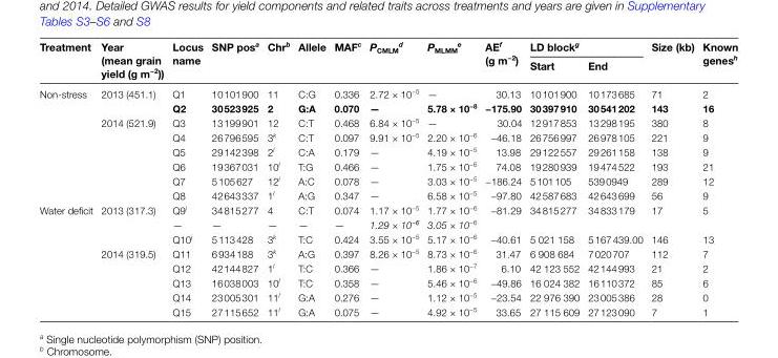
<table><thead><tr><td rowspan="2">Treatment</td><td rowspan="2">Year (mean grain yield (g m<sup>−2</sup>))</td><td rowspan="2">Locus name</td><td rowspan="2">SNP pos<sup>a</sup></td><td rowspan="2">Chr<sup>b</sup></td><td rowspan="2">Allele</td><td rowspan="2">MAF<sup>c</sup></td><td rowspan="2">P<sub>CMLM</sub> <sup>d</sup></td><td rowspan="2">P<sub>MLMM</sub> <sup>e</sup></td><td rowspan="2">AE<sup>f</sup> (g m<sup>−2</sup>)</td><td colspan="2">LD block<sup>g</sup></td><td rowspan="2">Size (kb)</td><td rowspan="2">Known genes<sup>h</sup></td></tr><tr><td>Start</td><td>End</td></tr></thead><tbody><tr><td rowspan="8">Non-stress</td><td rowspan="2">2013 (451.1)</td><td>Q1</td><td>10 101 900</td><td>11</td><td>C:G</td><td>0.336</td><td>2.72 × 10<sup>−5</sup></td><td>—</td><td>30.13</td><td>10 101 900</td><td>10 173 685</td><td>71</td><td>2</td></tr><tr><td>Q2</td><td>30 523 925</td><td>2</td><td>G:A</td><td>0.070</td><td>—</td><td>5.78 × 10<sup>−8</sup></td><td>−175.90</td><td>30 397 910</td><td>30 541 202</td><td>143</td><td>16</td></tr><tr><td rowspan="6">2014 (521.9)</td><td>Q3</td><td>13 199 901</td><td>12</td><td>C:T</td><td>0.468</td><td>6.84 × 10<sup>−5</sup></td><td>—</td><td>30.04</td><td>12 917 853</td><td>13 298 195</td><td>380</td><td>8</td></tr><tr><td>Q4</td><td>26 796 595</td><td>3<sup>k</sup></td><td>C:T</td><td>0.097</td><td>9.91 × 10<sup>−5</sup></td><td>2.20 × 10<sup>−6</sup></td><td>−46.18</td><td>26 756 997</td><td>26 978 105</td><td>221</td><td>9</td></tr><tr><td>Q5</td><td>29 142 398</td><td>2<sup>l</sup></td><td>C:A</td><td>0.179</td><td>—</td><td>4.19 × 10<sup>−5</sup></td><td>13.98</td><td>29 122 557</td><td>29 261 158</td><td>138</td><td>9</td></tr><tr><td>Q6</td><td>19 367 031</td><td>10<sup>l</sup></td><td>T:G</td><td>0.466</td><td>—</td><td>1.75 × 10<sup>−6</sup></td><td>74.08</td><td>19 280 939</td><td>19 474 522</td><td>193</td><td>21</td></tr><tr><td>Q7</td><td>5 105 627</td><td>12<sup>l</sup></td><td>A:C</td><td>0.078</td><td>—</td><td>3.03 × 10<sup>−5</sup></td><td>−186.24</td><td>5 101 105</td><td>539 0949</td><td>289</td><td>12</td></tr><tr><td>Q8</td><td>42 643 337</td><td>1<sup>l</sup></td><td>A:G</td><td>0.347</td><td>—</td><td>6.58 × 10<sup>−5</sup></td><td>−97.80</td><td>42 587 683</td><td>42 643 699</td><td>56</td><td>9</td></tr><tr><td rowspan="8">Water deficit</td><td rowspan="3">2013 (317.3)</td><td>Q9<sup>i</sup></td><td>34 815 277</td><td>4</td><td>C:T</td><td>0.074</td><td>1.17 × 10<sup>−5</sup></td><td>1.77 × 10<sup>−6</sup></td><td rowspan="2">−81.29</td><td rowspan="2">34 815 277</td><td rowspan="2">34 833 179</td><td rowspan="2">17</td><td rowspan="2">5</td></tr><tr><td>—</td><td>—</td><td>—</td><td>—</td><td>—</td><td>1.29 × 10<sup>−6</sup></td><td>3.05 × 10<sup>−6</sup></td></tr><tr><td>Q10<sup>j</sup></td><td>5 113 428</td><td>3<sup>k</sup></td><td>T:C</td><td>0.424</td><td>3.55 × 10<sup>−5</sup></td><td>5.17 × 10<sup>−6</sup></td><td>−40.61</td><td>5 021 158</td><td>5 167 439.00</td><td>146</td><td>13</td></tr><tr><td rowspan="5">2014 (319.5)</td><td>Q11</td><td>6 934 188</td><td>3<sup>k</sup></td><td>A:G</td><td>0.397</td><td>8.26 × 10<sup>−5</sup></td><td>8.73 × 10<sup>−6</sup></td><td>31.47</td><td>6 908 684</td><td>7 020 707</td><td>112</td><td>7</td></tr><tr><td>Q12</td><td>42 144 827</td><td>1<sup>l</sup></td><td>T:C</td><td>0.366</td><td>—</td><td>1.86 × 10<sup>−7</sup></td><td>6.10</td><td>42 123 552</td><td>42 144 993</td><td>21</td><td>2</td></tr><tr><td>Q13</td><td>16 038 003</td><td>10<sup>l</sup></td><td>T:C</td><td>0.358</td><td>—</td><td>5.46 × 10<sup>−6</sup></td><td>−49.86</td><td>16 024 382</td><td>16 110 372</td><td>85</td><td>6</td></tr><tr><td>Q14</td><td>23 005 301</td><td>11<sup>l</sup></td><td>G:A</td><td>0.276</td><td>—</td><td>1.12 × 10<sup>−5</sup></td><td>−23.54</td><td>22 976 390</td><td>23 005 386</td><td>28</td><td>0</td></tr><tr><td>Q15</td><td>27 115 652</td><td>11<sup>l</sup></td><td>G:A</td><td>0.075</td><td>—</td><td>4.92 × 10<sup>−5</sup></td><td>33.65</td><td>27 115 609</td><td>27 123 090</td><td>7</td><td>1</td></tr></tbody></table>